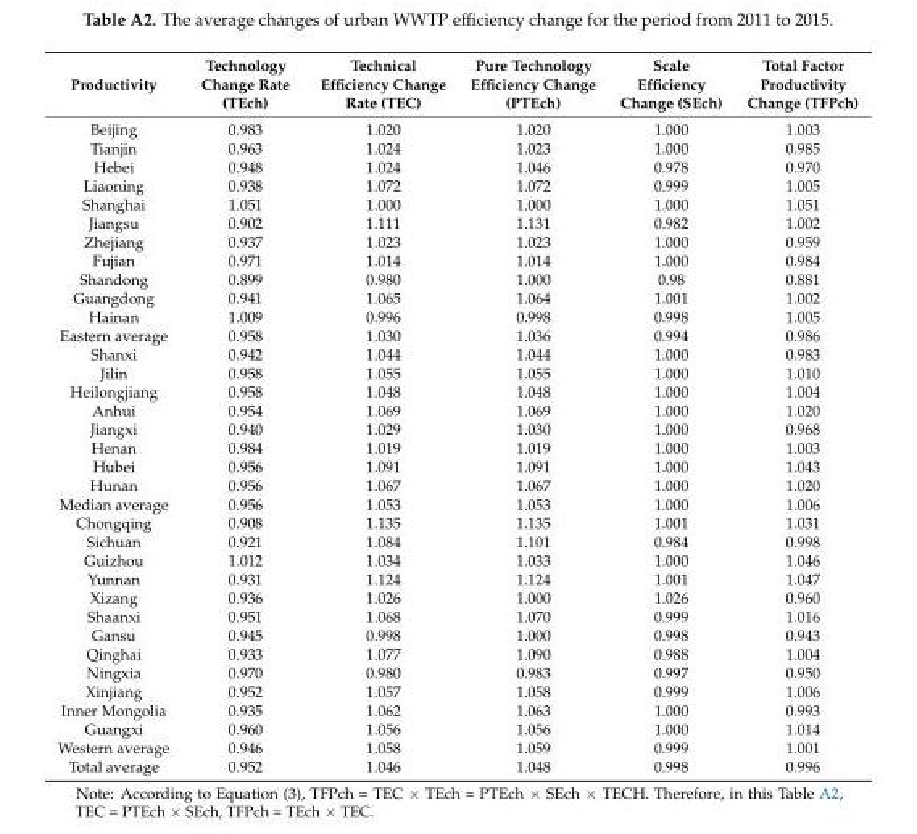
<table><thead><tr><td>Productivity</td><td>Technology Change Rate (TEch)</td><td>Technical Efficiency Change Rate (TEC)</td><td>Pure Technology Efficiency Change (PTEch)</td><td>Scale Efficiency Change (SEch)</td><td>Total Factor Productivity Change (TFPch)</td></tr></thead><tbody><tr><td>Beijing</td><td>0.983</td><td>1.020</td><td>1.020</td><td>1.000</td><td>1.003</td></tr><tr><td>Tianjin</td><td>0.963</td><td>1.024</td><td>1.023</td><td>1.000</td><td>0.985</td></tr><tr><td>Hebei</td><td>0.948</td><td>1.024</td><td>1.046</td><td>0.978</td><td>0.970</td></tr><tr><td>Liaoning</td><td>0.938</td><td>1.072</td><td>1.072</td><td>0.999</td><td>1.005</td></tr><tr><td>Shanghai</td><td>1.051</td><td>1.000</td><td>1.000</td><td>1.000</td><td>1.051</td></tr><tr><td>Jiangsu</td><td>0.902</td><td>1.111</td><td>1.131</td><td>0.982</td><td>1.002</td></tr><tr><td>Zhejiang</td><td>0.937</td><td>1.023</td><td>1.023</td><td>1.000</td><td>0.959</td></tr><tr><td>Fujian</td><td>0.971</td><td>1.014</td><td>1.014</td><td>1.000</td><td>0.984</td></tr><tr><td>Shandong</td><td>0.899</td><td>0.980</td><td>1.000</td><td>0.98</td><td>0.881</td></tr><tr><td>Guangdong</td><td>0.941</td><td>1.065</td><td>1.064</td><td>1.001</td><td>1.002</td></tr><tr><td>Hainan</td><td>1.009</td><td>0.996</td><td>0.998</td><td>0.998</td><td>1.005</td></tr><tr><td>Eastern average</td><td>0.958</td><td>1.030</td><td>1.036</td><td>0.994</td><td>0.986</td></tr><tr><td>Shanxi</td><td>0.942</td><td>1.044</td><td>1.044</td><td>1.000</td><td>0.983</td></tr><tr><td>Jilin</td><td>0.958</td><td>1.055</td><td>1.055</td><td>1.000</td><td>1.010</td></tr><tr><td>Heilongjiang</td><td>0.958</td><td>1.048</td><td>1.048</td><td>1.000</td><td>1.004</td></tr><tr><td>Anhui</td><td>0.954</td><td>1.069</td><td>1.069</td><td>1.000</td><td>1.020</td></tr><tr><td>Jiangxi</td><td>0.940</td><td>1.029</td><td>1.030</td><td>1.000</td><td>0.968</td></tr><tr><td>Henan</td><td>0.984</td><td>1.019</td><td>1.019</td><td>1.000</td><td>1.003</td></tr><tr><td>Hubei</td><td>0.956</td><td>1.091</td><td>1.091</td><td>1.000</td><td>1.043</td></tr><tr><td>Hunan</td><td>0.956</td><td>1.067</td><td>1.067</td><td>1.000</td><td>1.020</td></tr><tr><td>Median average</td><td>0.956</td><td>1.053</td><td>1.053</td><td>1.000</td><td>1.006</td></tr><tr><td>Chongqing</td><td>0.908</td><td>1.135</td><td>1.135</td><td>1.001</td><td>1.031</td></tr><tr><td>Sichuan</td><td>0.921</td><td>1.084</td><td>1.101</td><td>0.984</td><td>0.998</td></tr><tr><td>Guizhou</td><td>1.012</td><td>1.034</td><td>1.033</td><td>1.000</td><td>1.046</td></tr><tr><td>Yunnan</td><td>0.931</td><td>1.124</td><td>1.124</td><td>1.001</td><td>1.047</td></tr><tr><td>Xizang</td><td>0.936</td><td>1.026</td><td>1.000</td><td>1.026</td><td>0.960</td></tr><tr><td>Shaanxi</td><td>0.951</td><td>1.068</td><td>1.070</td><td>0.999</td><td>1.016</td></tr><tr><td>Gansu</td><td>0.945</td><td>0.998</td><td>1.000</td><td>0.998</td><td>0.943</td></tr><tr><td>Qinghai</td><td>0.933</td><td>1.077</td><td>1.090</td><td>0.988</td><td>1.004</td></tr><tr><td>Ningxia</td><td>0.970</td><td>0.980</td><td>0.983</td><td>0.997</td><td>0.950</td></tr><tr><td>Xinjiang</td><td>0.952</td><td>1.057</td><td>1.058</td><td>0.999</td><td>1.006</td></tr><tr><td>Inner Mongolia</td><td>0.935</td><td>1.062</td><td>1.063</td><td>1.000</td><td>0.993</td></tr><tr><td>Guangxi</td><td>0.960</td><td>1.056</td><td>1.056</td><td>1.000</td><td>1.014</td></tr><tr><td>Western average</td><td>0.946</td><td>1.058</td><td>1.059</td><td>0.999</td><td>1.001</td></tr><tr><td>Total average</td><td>0.952</td><td>1.046</td><td>1.048</td><td>0.998</td><td>0.996</td></tr></tbody></table>